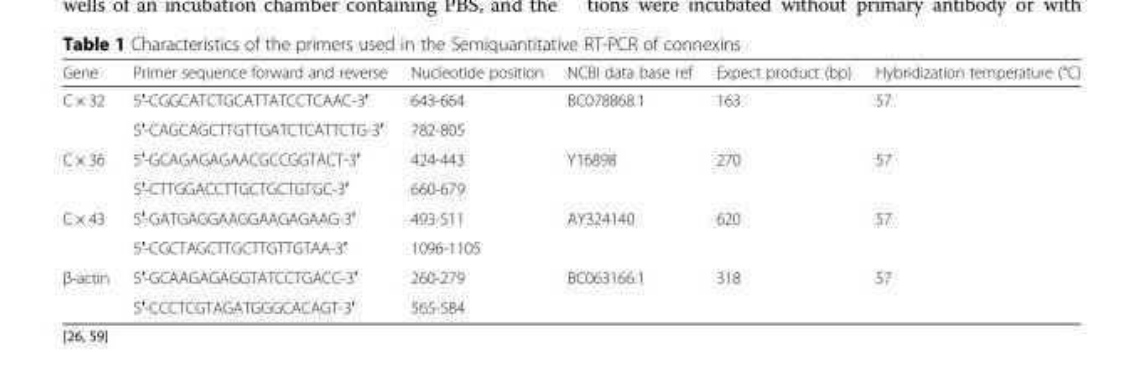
<table><thead><tr><td>Gene</td><td>Primer sequence forward and reverse</td><td>Nucleotide position</td><td>NCBI data base ref</td><td>Expect product (bp)</td><td>Hybridization temperature (°C)</td></tr></thead><tbody><tr><td rowspan="2">C × 32</td><td>5′-CGGCATCTGCATTATCCTCAAC-3′</td><td>643-664</td><td>BC078868.1</td><td>163</td><td>57</td></tr><tr><td>5′-CAGCAGCTTGTTGATCTCATTCTG-3′</td><td>782-805</td><td></td><td></td><td></td></tr><tr><td rowspan="2">C × 36</td><td>5′-GCAGAGAGAACGCCGGTACT-3′</td><td>424-443</td><td>Y16898</td><td>270</td><td>57</td></tr><tr><td>5′-CTTGGACCTTGCTGCTGTGC-3′</td><td>660-679</td><td></td><td></td><td></td></tr><tr><td rowspan="2">C × 43</td><td>5′-GATGAGGAAGGAAGAGAAG-3′</td><td>493-511</td><td>AY324140</td><td>620</td><td>57</td></tr><tr><td>5′-CGCTAGCTTGCTTGTTGTAA-3′</td><td>1096-1105</td><td></td><td></td><td></td></tr><tr><td rowspan="2">β-actin</td><td>5′-GCAAGAGAGGTATCCTGACC-3′</td><td>260-279</td><td>BC063166.1</td><td>318</td><td>57</td></tr><tr><td>5′-CCCTCGTAGATGGGCACAGT-3′</td><td>565-584</td><td></td><td></td><td></td></tr></tbody></table>